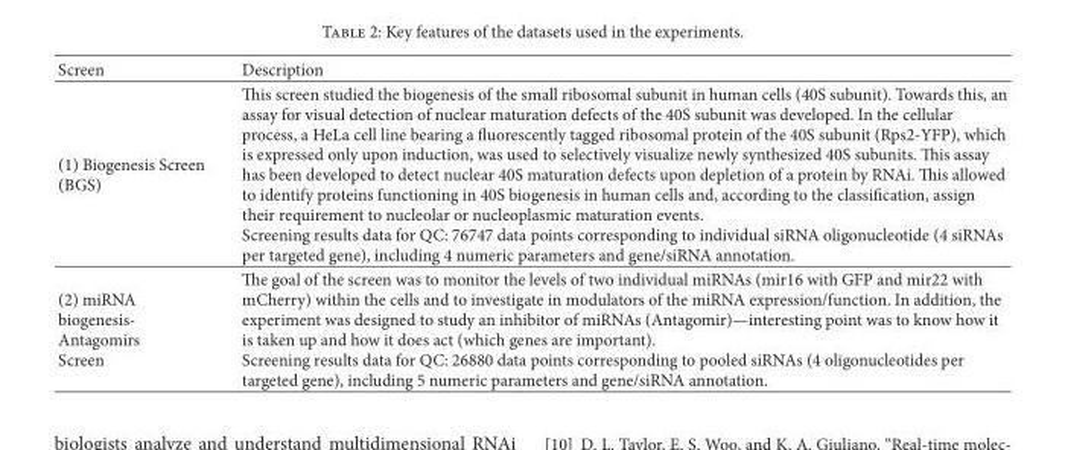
<table><thead><tr><td>Screen</td><td>Description</td></tr></thead><tbody><tr><td>(1) Biogenesis Screen (BGS)</td><td>is screen studied the biogenesis of the small ribosomal subunit in human cells (40S subunit). Towards this, an assay for visual detection of nuclear maturation defects of the 40S subunit was developed. In the cellular process, a HeLa cell line bearing a �uorescently tagged ribosomal protein of the 40S subunit (Rps2-YFP), which is expressed only upon induction, was used to selectively visualize newly synthesized 40S subunits. is assay has been developed to detect nuclear 40S maturation defects upon depletion of a protein by RNAi. is allowed to identify proteins functioning in 40S biogenesis in human cells and, according to the classi�cation, assign their requirement to nucleolar or nucleoplasmic maturation events. Screening results data for QC: 76747 data points corresponding to individual siRNA oligonucleotide (4 siRNAs per targeted gene), including 4 numeric parameters and gene/siRNA annotation.</td></tr><tr><td>(2) miRNA biogenesis- Antagomirs Screen</td><td>e goal of the screen was to monitor the levels of two individual miRNAs (mir16 with GFP and mir22 with mCherry) within the cells and to investigate in modulators of the miRNA expression/function. In addition, the experiment was designed to study an inhibitor of miRNAs (Antagomir)—interesting point was to know how it is taken up and how it does act (which genes are important). Screening results data for QC: 26880 data points corresponding to pooled siRNAs (4 oligonucleotides per targeted gene), including 5 numeric parameters and gene/siRNA annotation.</td></tr></tbody></table>